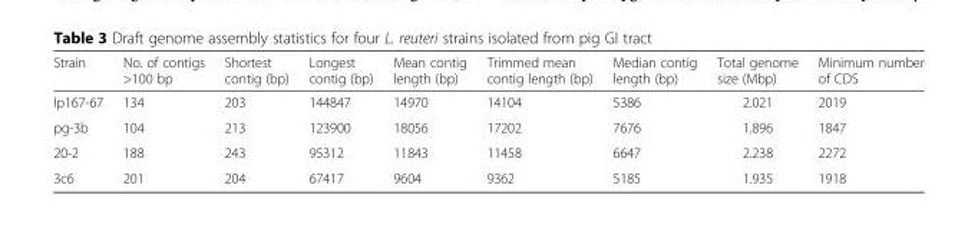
<table><thead><tr><td>Strain</td><td>No. of contigs &gt;100 bp</td><td>Shortest contig (bp)</td><td>Longest contig (bp)</td><td>Mean contig length (bp)</td><td>Trimmed mean contig length (bp)</td><td>Median contig length (bp)</td><td>Total genome size (Mbp)</td><td>Minimum number of CDS</td></tr></thead><tbody><tr><td>lp167-67</td><td>134</td><td>203</td><td>144847</td><td>14970</td><td>14104</td><td>5386</td><td>2.021</td><td>2019</td></tr><tr><td>pg-3b</td><td>104</td><td>213</td><td>123900</td><td>18056</td><td>17202</td><td>7676</td><td>1.896</td><td>1847</td></tr><tr><td>20-2</td><td>188</td><td>243</td><td>95312</td><td>11843</td><td>11458</td><td>6647</td><td>2.238</td><td>2272</td></tr><tr><td>3c6</td><td>201</td><td>204</td><td>67417</td><td>9604</td><td>9362</td><td>5185</td><td>1.935</td><td>1918</td></tr></tbody></table>